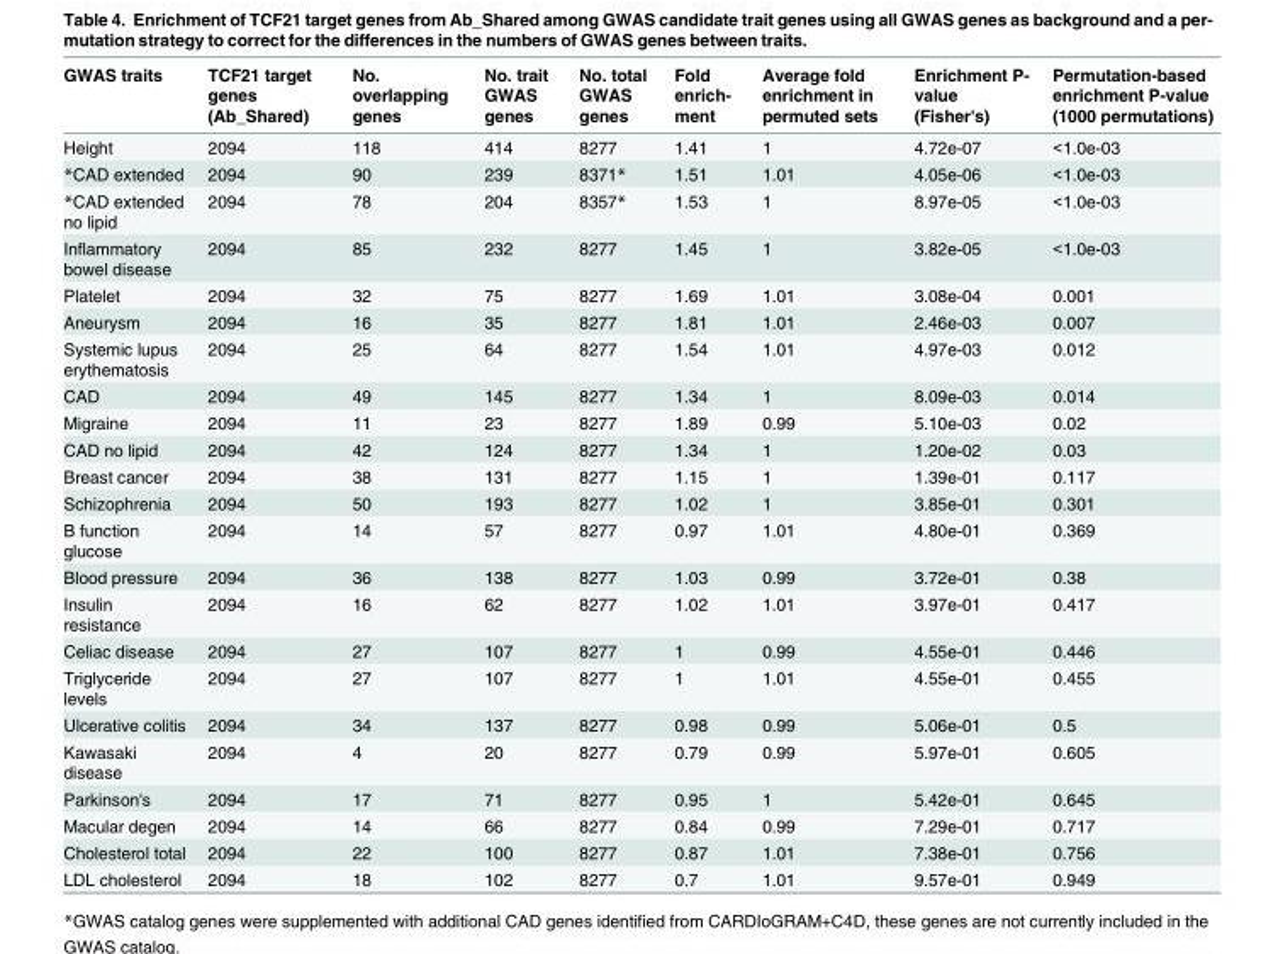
<table><thead><tr><td>GWAS traits</td><td>TCF21 target genes (Ab_Shared)</td><td>No. overlapping genes</td><td>No. trait GWAS genes</td><td>No. total GWAS genes</td><td>Fold enrich- ment</td><td>Average fold enrichment in permuted sets</td><td>Enrichment P- value (Fisher&#x27;s)</td><td>Permutation-based enrichment P-value (1000 permutations)</td></tr></thead><tbody><tr><td>Height</td><td>2094</td><td>118</td><td>414</td><td>8277</td><td>1.41</td><td>1</td><td>4.72e-07</td><td>&lt;1.0e-03</td></tr><tr><td>*CAD extended</td><td>2094</td><td>90</td><td>239</td><td>8371*</td><td>1.51</td><td>1.01</td><td>4.05e-06</td><td>&lt;1.0e-03</td></tr><tr><td>*CAD extended no lipid</td><td>2094</td><td>78</td><td>204</td><td>8357*</td><td>1.53</td><td>1</td><td>8.97e-05</td><td>&lt;1.0e-03</td></tr><tr><td>Inflammatory bowel disease</td><td>2094</td><td>85</td><td>232</td><td>8277</td><td>1.45</td><td>1</td><td>3.82e-05</td><td>&lt;1.0e-03</td></tr><tr><td>Platelet</td><td>2094</td><td>32</td><td>75</td><td>8277</td><td>1.69</td><td>1.01</td><td>3.08e-04</td><td>0.001</td></tr><tr><td>Aneurysm</td><td>2094</td><td>16</td><td>35</td><td>8277</td><td>1.81</td><td>1.01</td><td>2.46e-03</td><td>0.007</td></tr><tr><td>Systemic lupus erythematosis</td><td>2094</td><td>25</td><td>64</td><td>8277</td><td>1.54</td><td>1.01</td><td>4.97e-03</td><td>0.012</td></tr><tr><td>CAD</td><td>2094</td><td>49</td><td>145</td><td>8277</td><td>1.34</td><td>1</td><td>8.09e-03</td><td>0.014</td></tr><tr><td>Migraine</td><td>2094</td><td>11</td><td>23</td><td>8277</td><td>1.89</td><td>0.99</td><td>5.10e-03</td><td>0.02</td></tr><tr><td>CAD no lipid</td><td>2094</td><td>42</td><td>124</td><td>8277</td><td>1.34</td><td>1</td><td>1.20e-02</td><td>0.03</td></tr><tr><td>Breast cancer</td><td>2094</td><td>38</td><td>131</td><td>8277</td><td>1.15</td><td>1</td><td>1.39e-01</td><td>0.117</td></tr><tr><td>Schizophrenia</td><td>2094</td><td>50</td><td>193</td><td>8277</td><td>1.02</td><td>1</td><td>3.85e-01</td><td>0.301</td></tr><tr><td>B function glucose</td><td>2094</td><td>14</td><td>57</td><td>8277</td><td>0.97</td><td>1.01</td><td>4.80e-01</td><td>0.369</td></tr><tr><td>Blood pressure</td><td>2094</td><td>36</td><td>138</td><td>8277</td><td>1.03</td><td>0.99</td><td>3.72e-01</td><td>0.38</td></tr><tr><td>Insulin resistance</td><td>2094</td><td>16</td><td>62</td><td>8277</td><td>1.02</td><td>1.01</td><td>3.97e-01</td><td>0.417</td></tr><tr><td>Celiac disease</td><td>2094</td><td>27</td><td>107</td><td>8277</td><td>1</td><td>0.99</td><td>4.55e-01</td><td>0.446</td></tr><tr><td>Triglyceride levels</td><td>2094</td><td>27</td><td>107</td><td>8277</td><td>1</td><td>1.01</td><td>4.55e-01</td><td>0.455</td></tr><tr><td>Ulcerative colitis</td><td>2094</td><td>34</td><td>137</td><td>8277</td><td>0.98</td><td>0.99</td><td>5.06e-01</td><td>0.5</td></tr><tr><td>Kawasaki disease</td><td>2094</td><td>4</td><td>20</td><td>8277</td><td>0.79</td><td>0.99</td><td>5.97e-01</td><td>0.605</td></tr><tr><td>Parkinson&#x27;s</td><td>2094</td><td>17</td><td>71</td><td>8277</td><td>0.95</td><td>1</td><td>5.42e-01</td><td>0.645</td></tr><tr><td>Macular degen</td><td>2094</td><td>14</td><td>66</td><td>8277</td><td>0.84</td><td>0.99</td><td>7.29e-01</td><td>0.717</td></tr><tr><td>Cholesterol total</td><td>2094</td><td>22</td><td>100</td><td>8277</td><td>0.87</td><td>1.01</td><td>7.38e-01</td><td>0.756</td></tr><tr><td>LDL cholesterol</td><td>2094</td><td>18</td><td>102</td><td>8277</td><td>0.7</td><td>1.01</td><td>9.57e-01</td><td>0.949</td></tr></tbody></table>